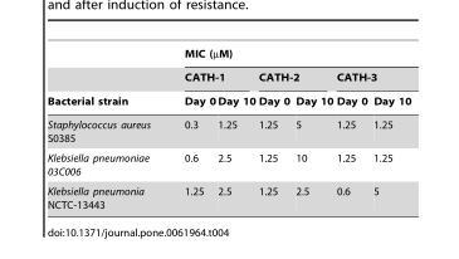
<table><thead><tr><td rowspan="3">Bacterial strain</td><td colspan="6">MIC (µM)</td></tr><tr><td colspan="2">CATH-1</td><td colspan="2">CATH-2</td><td colspan="2">CATH-3</td></tr><tr><td>Day 0</td><td>Day 10</td><td>Day 0</td><td>Day 10</td><td>Day 0</td><td>Day 10</td></tr></thead><tbody><tr><td>Staphylococcus aureus S0385</td><td>0.3</td><td>1.25</td><td>1.25</td><td>5</td><td>1.25</td><td>1.25</td></tr><tr><td>Klebsiella pneumoniae 03C006</td><td>0.6</td><td>2.5</td><td>1.25</td><td>10</td><td>1.25</td><td>1.25</td></tr><tr><td>Klebsiella pneumonia NCTC-13443</td><td>1.25</td><td>2.5</td><td>1.25</td><td>2.5</td><td>0.6</td><td>5</td></tr></tbody></table>